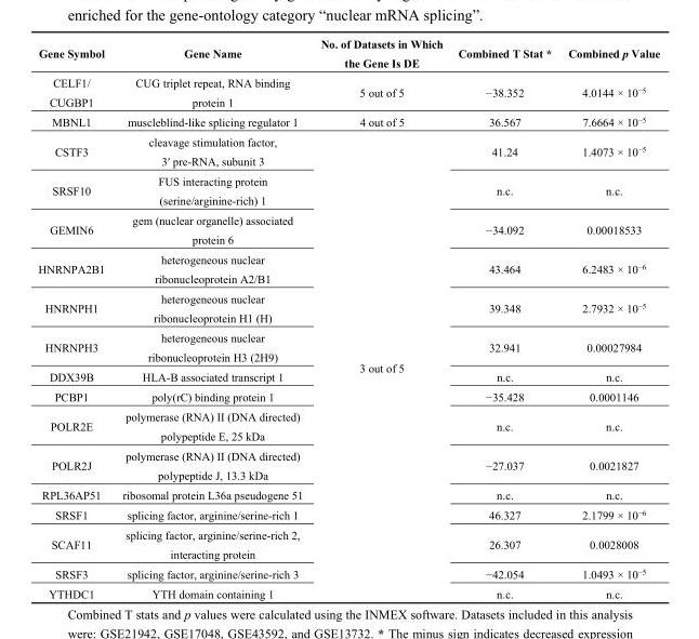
<table><thead><tr><td>Gene Symbol</td><td>Gene Name</td><td>No. of Datasets in Which the Gene Is DE</td><td>Combined T Stat *</td><td>Combined p Value</td></tr></thead><tbody><tr><td>CELF1/ CUGBP1</td><td>CUG triplet repeat, RNA binding protein 1</td><td>5 out of 5</td><td>−38.352</td><td>4.0144 × 10<sup>−5</sup></td></tr><tr><td>MBNL1</td><td>muscleblind-like splicing regulator 1</td><td>4 out of 5</td><td>36.567</td><td>7.6664 × 10<sup>−5</sup></td></tr><tr><td>CSTF3</td><td>cleavage stimulation factor, 3ʹ pre-RNA, subunit 3</td><td rowspan="15">3 out of 5</td><td>41.24</td><td>1.4073 × 10<sup>−5</sup></td></tr><tr><td>SRSF10</td><td>FUS interacting protein (serine/arginine-rich) 1</td><td>n.c.</td><td>n.c.</td></tr><tr><td>GEMIN6</td><td>gem (nuclear organelle) associated protein 6</td><td>−34.092</td><td>0.00018533</td></tr><tr><td>HNRNPA2B1</td><td>heterogeneous nuclear ribonucleoprotein A2/B1</td><td>43.464</td><td>6.2483 × 10<sup>−6</sup></td></tr><tr><td>HNRNPH1</td><td>heterogeneous nuclear ribonucleoprotein H1 (H)</td><td>39.348</td><td>2.7932 × 10<sup>−5</sup></td></tr><tr><td>HNRNPH3</td><td>heterogeneous nuclear ribonucleoprotein H3 (2H9)</td><td>32.941</td><td>0.00027984</td></tr><tr><td>DDX39B</td><td>HLA-B associated transcript 1</td><td>n.c.</td><td>n.c.</td></tr><tr><td>PCBP1</td><td>poly(rC) binding protein 1</td><td>−35.428</td><td>0.0001146</td></tr><tr><td>POLR2E</td><td>polymerase (RNA) II (DNA directed) polypeptide E, 25 kDa</td><td>n.c.</td><td>n.c.</td></tr><tr><td>POLR2J</td><td>polymerase (RNA) II (DNA directed) polypeptide J, 13.3 kDa</td><td>−27.037</td><td>0.0021827</td></tr><tr><td>RPL36AP51</td><td>ribosomal protein L36a pseudogene 51</td><td>n.c.</td><td>n.c.</td></tr><tr><td>SRSF1</td><td>splicing factor, arginine/serine-rich 1</td><td>46.327</td><td>2.1799 × 10<sup>−6</sup></td></tr><tr><td>SCAF11</td><td>splicing factor, arginine/serine-rich 2, interacting protein</td><td>26.307</td><td>0.0028008</td></tr><tr><td>SRSF3</td><td>splicing factor, arginine/serine-rich 3</td><td>−42.054</td><td>1.0493 × 10<sup>−5</sup></td></tr><tr><td>YTHDC1</td><td>YTH domain containing 1</td><td>n.c.</td><td>n.c.</td></tr></tbody></table>